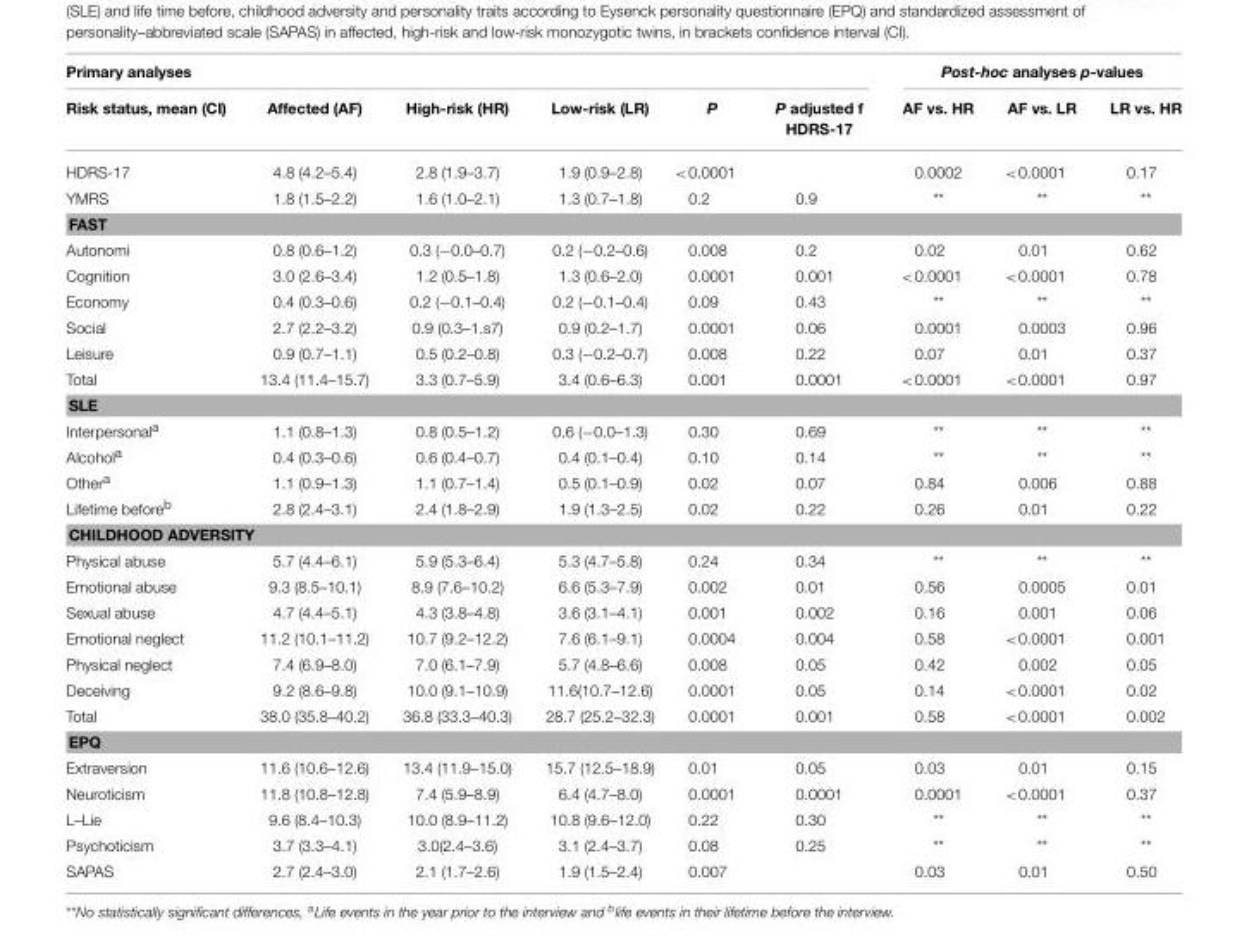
<table><thead><tr><td colspan="2">Primary analyses</td><td rowspan="2">High-risk (HR)</td><td rowspan="2">Low-risk (LR)</td><td rowspan="2">P</td><td rowspan="2">P adjusted f HDRS-17</td><td colspan="3">Post-hoc analyses p-values</td></tr><tr><td>Risk status, mean (CI)</td><td>Affected (AF)</td><td>AF vs. HR</td><td>AF vs. LR</td><td>LR vs. HR</td></tr></thead><tbody><tr><td>HDRS-17</td><td>4.8 (4.2–5.4)</td><td>2.8 (1.9–3.7)</td><td>1.9 (0.9–2.8)</td><td>&lt;0.0001</td><td></td><td>0.0002</td><td>&lt;0.0001</td><td>0.17</td></tr><tr><td>YMRS</td><td>1.8 (1.5–2.2)</td><td>1.6 (1.0–2.1)</td><td>1.3 (0.7–1.8)</td><td>0.2</td><td>0.9</td><td>**</td><td>**</td><td>**</td></tr><tr><td colspan="9">FAST</td></tr><tr><td>Autonomi</td><td>0.8 (0.6–1.2)</td><td>0.3 (−0.0–0.7)</td><td>0.2 (−0.2–0.6)</td><td>0.008</td><td>0.2</td><td>0.02</td><td>0.01</td><td>0.62</td></tr><tr><td>Cognition</td><td>3.0 (2.6–3.4)</td><td>1.2 (0.5–1.8)</td><td>1.3 (0.6–2.0)</td><td>0.0001</td><td>0.001</td><td>&lt;0.0001</td><td>&lt;0.0001</td><td>0.78</td></tr><tr><td>Economy</td><td>0.4 (0.3–0.6)</td><td>0.2 (−0.1–0.4)</td><td>0.2 (−0.1–0.4)</td><td>0.09</td><td>0.43</td><td>**</td><td>**</td><td>**</td></tr><tr><td>Social</td><td>2.7 (2.2–3.2)</td><td>0.9 (0.3–1.s7)</td><td>0.9 (0.2–1.7)</td><td>0.0001</td><td>0.06</td><td>0.0001</td><td>0.0003</td><td>0.96</td></tr><tr><td>Leisure</td><td>0.9 (0.7–1.1)</td><td>0.5 (0.2–0.8)</td><td>0.3 (−0.2–0.7)</td><td>0.008</td><td>0.22</td><td>0.07</td><td>0.01</td><td>0.37</td></tr><tr><td>Total</td><td>13.4 (11.4–15.7)</td><td>3.3 (0.7–5.9)</td><td>3.4 (0.6–6.3)</td><td>0.001</td><td>0.0001</td><td>&lt;0.0001</td><td>&lt;0.0001</td><td>0.97</td></tr><tr><td colspan="9">SLE</td></tr><tr><td>Interpersonal<sup>a</sup></td><td>1.1 (0.8–1.3)</td><td>0.8 (0.5–1.2)</td><td>0.6 (−0.0–1.3)</td><td>0.30</td><td>0.69</td><td>**</td><td>**</td><td>**</td></tr><tr><td>Alcohol<sup>a</sup></td><td>0.4 (0.3–0.6)</td><td>0.6 (0.4–0.7)</td><td>0.4 (0.1–0.4)</td><td>0.10</td><td>0.14</td><td>**</td><td>**</td><td>**</td></tr><tr><td>Other<sup>a</sup></td><td>1.1 (0.9–1.3)</td><td>1.1 (0.7–1.4)</td><td>0.5 (0.1–0.9)</td><td>0.02</td><td>0.07</td><td>0.84</td><td>0.006</td><td>0.88</td></tr><tr><td>Lifetime before<sup>b</sup></td><td>2.8 (2.4–3.1)</td><td>2.4 (1.8–2.9)</td><td>1.9 (1.3–2.5)</td><td>0.02</td><td>0.22</td><td>0.26</td><td>0.01</td><td>0.22</td></tr><tr><td colspan="9">CHILDHOOD ADVERSITY</td></tr><tr><td>Physical abuse</td><td>5.7 (4.4–6.1)</td><td>5.9 (5.3–6.4)</td><td>5.3 (4.7–5.8)</td><td>0.24</td><td>0.34</td><td>**</td><td>**</td><td>**</td></tr><tr><td>Emotional abuse</td><td>9.3 (8.5–10.1)</td><td>8.9 (7.6–10.2)</td><td>6.6 (5.3–7.9)</td><td>0.002</td><td>0.01</td><td>0.56</td><td>0.0005</td><td>0.01</td></tr><tr><td>Sexual abuse</td><td>4.7 (4.4–5.1)</td><td>4.3 (3.8–4.8)</td><td>3.6 (3.1–4.1)</td><td>0.001</td><td>0.002</td><td>0.16</td><td>0.001</td><td>0.06</td></tr><tr><td>Emotional neglect</td><td>11.2 (10.1–11.2)</td><td>10.7 (9.2–12.2)</td><td>7.6 (6.1–9.1)</td><td>0.0004</td><td>0.004</td><td>0.58</td><td>&lt;0.0001</td><td>0.001</td></tr><tr><td>Physical neglect</td><td>7.4 (6.9–8.0)</td><td>7.0 (6.1–7.9)</td><td>5.7 (4.8–6.6)</td><td>0.008</td><td>0.05</td><td>0.42</td><td>0.002</td><td>0.05</td></tr><tr><td>Deceiving</td><td>9.2 (8.6–9.8)</td><td>10.0 (9.1–10.9)</td><td>11.6(10.7–12.6)</td><td>0.0001</td><td>0.05</td><td>0.14</td><td>&lt;0.0001</td><td>0.02</td></tr><tr><td>Total</td><td>38.0 (35.8–40.2)</td><td>36.8 (33.3–40.3)</td><td>28.7 (25.2–32.3)</td><td>0.0001</td><td>0.001</td><td>0.58</td><td>&lt;0.0001</td><td>0.002</td></tr><tr><td colspan="9">EPQ</td></tr><tr><td>Extraversion</td><td>11.6 (10.6–12.6)</td><td>13.4 (11.9–15.0)</td><td>15.7 (12.5–18.9)</td><td>0.01</td><td>0.05</td><td>0.03</td><td>0.01</td><td>0.15</td></tr><tr><td>Neuroticism</td><td>11.8 (10.8–12.8)</td><td>7.4 (5.9–8.9)</td><td>6.4 (4.7–8.0)</td><td>0.0001</td><td>0.0001</td><td>0.0001</td><td>&lt;0.0001</td><td>0.37</td></tr><tr><td>L–Lie</td><td>9.6 (8.4–10.3)</td><td>10.0 (8.9–11.2)</td><td>10.8 (9.6–12.0)</td><td>0.22</td><td>0.30</td><td>**</td><td>**</td><td>**</td></tr><tr><td>Psychoticism</td><td>3.7 (3.3–4.1)</td><td>3.0(2.4–3.6)</td><td>3.1 (2.4–3.7)</td><td>0.08</td><td>0.25</td><td>**</td><td>**</td><td>**</td></tr><tr><td>SAPAS</td><td>2.7 (2.4–3.0)</td><td>2.1 (1.7–2.6)</td><td>1.9 (1.5–2.4)</td><td>0.007</td><td></td><td>0.03</td><td>0.01</td><td>0.50</td></tr></tbody></table>